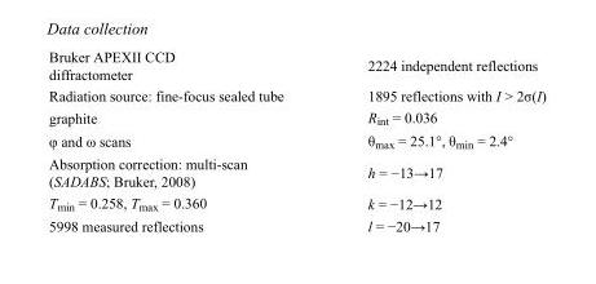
<table><tbody><tr><td>Bruker APEXII CCD diffractometer</td><td>2224 independent reflections</td></tr><tr><td>Radiation source: fine-focus sealed tube</td><td>1895 reflections with I &gt; 2σ(I)</td></tr><tr><td>graphite</td><td>R<sub>int</sub> = 0.036</td></tr><tr><td>φ and ω scans</td><td>θ<sub>max</sub> = 25.1°, θ<sub>min</sub> = 2.4°</td></tr><tr><td>Absorption correction: multi-scan (SADABS; Bruker, 2008)</td><td>h = −13→17</td></tr><tr><td>T<sub>min</sub> = 0.258, T<sub>max</sub> = 0.360</td><td>k = −12→12</td></tr><tr><td>5998 measured reflections</td><td>l = −20→17</td></tr></tbody></table>